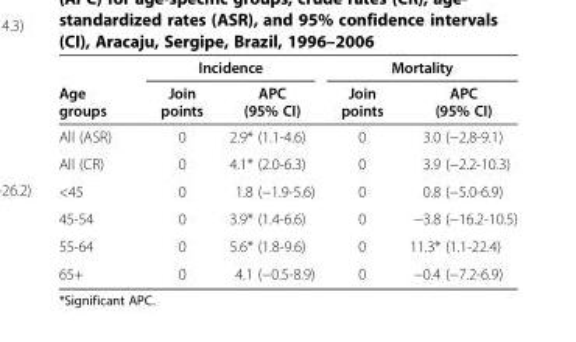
<table><thead><tr><td rowspan="2">Age groups</td><td colspan="2">Incidence</td><td colspan="2">Mortality</td></tr><tr><td>Join points</td><td>APC (95% CI)</td><td>Join points</td><td>APC (95% CI)</td></tr></thead><tbody><tr><td>All (ASR)</td><td>0</td><td>2.9* (1.1-4.6)</td><td>0</td><td>3.0 (−2,8-9.1)</td></tr><tr><td>All (CR)</td><td>0</td><td>4.1* (2.0-6.3)</td><td>0</td><td>3.9 (−2.2-10.3)</td></tr><tr><td>&lt;45</td><td>0</td><td>1.8 (−1.9-5.6)</td><td>0</td><td>0.8 (−5.0-6.9)</td></tr><tr><td>45-54</td><td>0</td><td>3.9* (1.4-6.6)</td><td>0</td><td>−3.8 (−16.2-10.5)</td></tr><tr><td>55-64</td><td>0</td><td>5.6* (1.8-9.6)</td><td>0</td><td>11.3* (1.1-22.4)</td></tr><tr><td>65+</td><td>0</td><td>4.1 (−0.5-8.9)</td><td>0</td><td>−0.4 (−7.2-6.9)</td></tr></tbody></table>